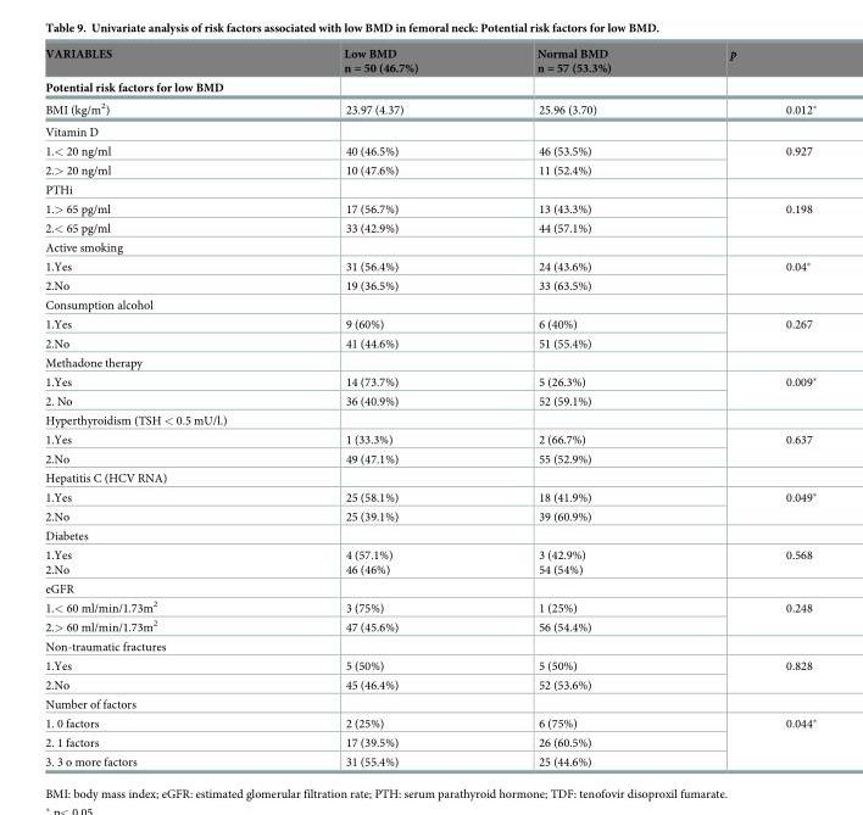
<table><thead><tr><td rowspan="2">VARIABLES Potential risk factors for low BMD</td><td rowspan="2">Low BMD n = 50 (46.7%)</td><td rowspan="2">Normal BMD n = 57 (53.3%)</td><td rowspan="2">p</td></tr><tr></tr></thead><tbody><tr><td>BMI (kg/m<sup>2</sup>)</td><td>23.97 (4.37)</td><td>25.96 (3.70)</td><td>0.012*</td></tr><tr><td colspan="4">Vitamin D</td></tr><tr><td>1.&lt; 20 ng/ml</td><td>40 (46.5%)</td><td>46 (53.5%)</td><td rowspan="2">0.927</td></tr><tr><td>2.&gt; 20 ng/ml</td><td>10 (47.6%)</td><td>11 (52.4%)</td></tr><tr><td colspan="4">PTHi</td></tr><tr><td>1.&gt; 65 pg/ml</td><td>17 (56.7%)</td><td>13 (43.3%)</td><td rowspan="2">0.198</td></tr><tr><td>2.&lt; 65 pg/ml</td><td>33 (42.9%)</td><td>44 (57.1%)</td></tr><tr><td colspan="4">Active smoking</td></tr><tr><td>1.Yes</td><td>31 (56.4%)</td><td>24 (43.6%)</td><td rowspan="2">0.04*</td></tr><tr><td>2.No</td><td>19 (36.5%)</td><td>33 (63.5%)</td></tr><tr><td colspan="4">Consumption alcohol</td></tr><tr><td>1.Yes</td><td>9 (60%)</td><td>6 (40%)</td><td rowspan="2">0.267</td></tr><tr><td>2.No</td><td>41 (44.6%)</td><td>51 (55.4%)</td></tr><tr><td colspan="4">Methadone therapy</td></tr><tr><td>1.Yes</td><td>14 (73.7%)</td><td>5 (26.3%)</td><td rowspan="2">0.009*</td></tr><tr><td>2. No</td><td>36 (40.9%)</td><td>52 (59.1%)</td></tr><tr><td colspan="4">Hyperthyroidism (TSH &lt; 0.5 mU/l.)</td></tr><tr><td>1.Yes</td><td>1 (33.3%)</td><td>2 (66.7%)</td><td rowspan="2">0.637</td></tr><tr><td>2.No</td><td>49 (47.1%)</td><td>55 (52.9%)</td></tr><tr><td colspan="4">Hepatitis C (HCV RNA)</td></tr><tr><td>1.Yes</td><td>25 (58.1%)</td><td>18 (41.9%)</td><td rowspan="2">0.049*</td></tr><tr><td>2.No</td><td>25 (39.1%)</td><td>39 (60.9%)</td></tr><tr><td colspan="4">Diabetes</td></tr><tr><td>1.Yes 2.No</td><td>4 (57.1%) 46 (46%)</td><td>3 (42.9%) 54 (54%)</td><td>0.568</td></tr><tr><td colspan="4">eGFR</td></tr><tr><td>1.&lt; 60 ml/min/1.73m<sup>2</sup></td><td>3 (75%)</td><td>1 (25%)</td><td rowspan="2">0.248</td></tr><tr><td>2.&gt; 60 ml/min/1.73m<sup>2</sup></td><td>47 (45.6%)</td><td>56 (54.4%)</td></tr><tr><td colspan="4">Non-traumatic fractures</td></tr><tr><td>1.Yes</td><td>5 (50%)</td><td>5 (50%)</td><td rowspan="2">0.828</td></tr><tr><td>2.No</td><td>45 (46.4%)</td><td>52 (53.6%)</td></tr><tr><td colspan="4">Number of factors</td></tr><tr><td>1. 0 factors</td><td>2 (25%)</td><td>6 (75%)</td><td rowspan="3">0.044*</td></tr><tr><td>2. 1 factors</td><td>17 (39.5%)</td><td>26 (60.5%)</td></tr><tr><td>3. 3 o more factors</td><td>31 (55.4%)</td><td>25 (44.6%)</td></tr></tbody></table>